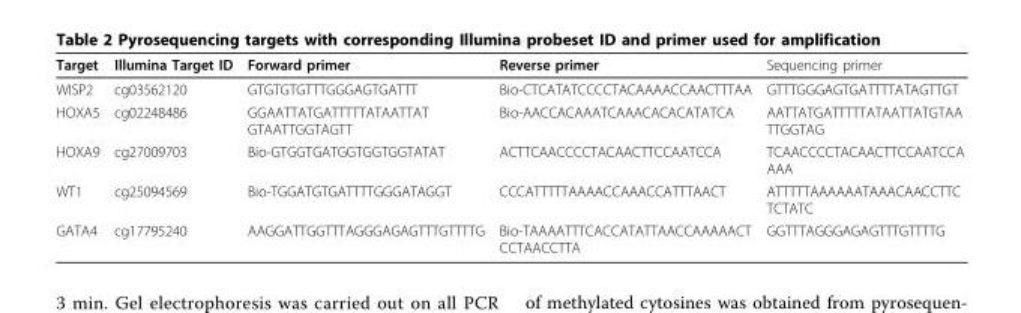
<table><thead><tr><td>Target</td><td>Illumina Target ID</td><td>Forward primer</td><td>Reverse primer</td><td>Sequencing primer</td></tr></thead><tbody><tr><td>WISP2</td><td>cg03562120</td><td>GTGTGTGTTTGGGAGTGATTT</td><td>Bio-CTCATATCCCCTACAAAACCAACTTTAA</td><td>GTTTGGGAGTGATTTTATAGTTGT</td></tr><tr><td>HOXA5</td><td>cg02248486</td><td>GGAATTATGATTTTTATAATTAT GTAATTGGTAGTT</td><td>Bio-AACCACAAATCAAACACACATATCA</td><td>AATTATGATTTTTATAATTATGTAA TTGGTAG</td></tr><tr><td>HOXA9</td><td>cg27009703</td><td>Bio-GTGGTGATGGTGGTGGTATAT</td><td>ACTTCAACCCCTACAACTTCCAATCCA</td><td>TCAACCCCTACAACTTCCAATCCA AAA</td></tr><tr><td>WT1</td><td>cg25094569</td><td>Bio-TGGATGTGATTTTGGGATAGGT</td><td>CCCATTTTTAAAACCAAACCATTTAACT</td><td>ATTTTTAAAAAATAAACAACCTTC TCTATC</td></tr><tr><td>GATA4</td><td>cg17795240</td><td>AAGGATTGGTTTAGGGAGAGTTTGTTTTG</td><td>Bio-TAAAATTTCACCATATTAACCAAAAACT CCTAACCTTA</td><td>GGTTTAGGGAGAGTTTGTTTTG</td></tr></tbody></table>